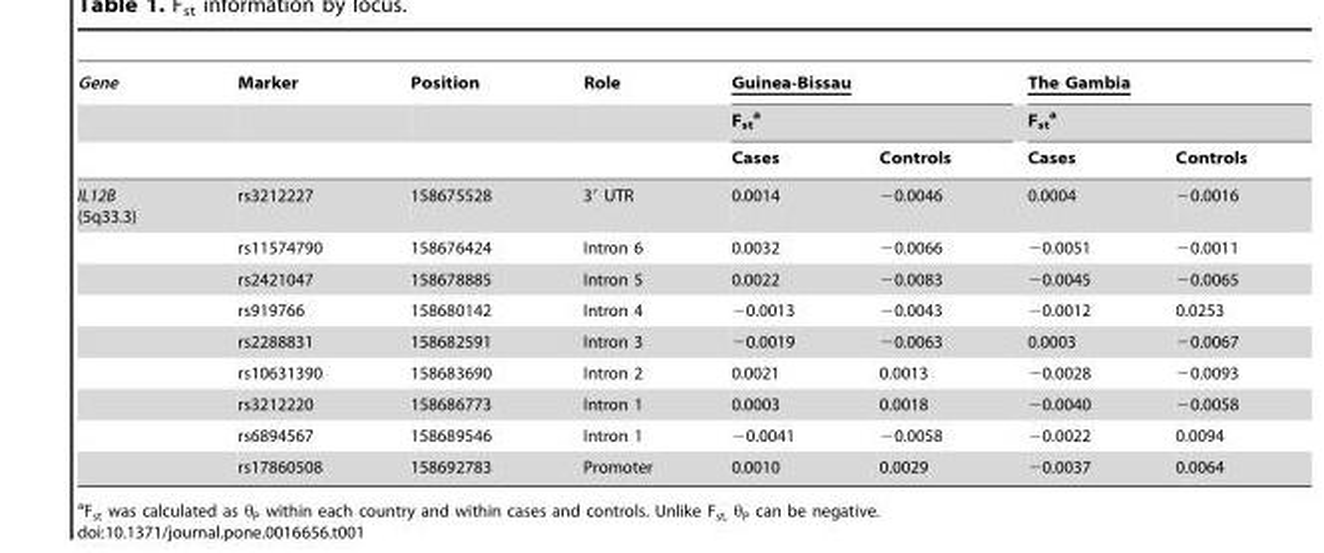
<table><thead><tr><td rowspan="3">Gene</td><td rowspan="3">Marker</td><td rowspan="3">Position</td><td rowspan="3">Role</td><td rowspan="2" colspan="2">Guinea-Bissau F<sub>st</sub> a</td><td rowspan="2" colspan="2">The Gambia F<sub>st</sub> a</td></tr><tr></tr><tr><td>Cases</td><td>Controls</td><td>Cases</td><td>Controls</td></tr></thead><tbody><tr><td rowspan="9">IL12B (5q33.3)</td><td>rs3212227</td><td>158675528</td><td>3′ UTR</td><td>0.0014</td><td>−0.0046</td><td>0.0004</td><td>−0.0016</td></tr><tr><td>rs11574790</td><td>158676424</td><td>Intron 6</td><td>0.0032</td><td>−0.0066</td><td>−0.0051</td><td>−0.0011</td></tr><tr><td>rs2421047</td><td>158678885</td><td>Intron 5</td><td>0.0022</td><td>−0.0083</td><td>−0.0045</td><td>−0.0065</td></tr><tr><td>rs919766</td><td>158680142</td><td>Intron 4</td><td>−0.0013</td><td>−0.0043</td><td>−0.0012</td><td>0.0253</td></tr><tr><td>rs2288831</td><td>158682591</td><td>Intron 3</td><td>−0.0019</td><td>−0.0063</td><td>0.0003</td><td>−0.0067</td></tr><tr><td>rs10631390</td><td>158683690</td><td>Intron 2</td><td>0.0021</td><td>0.0013</td><td>−0.0028</td><td>−0.0093</td></tr><tr><td>rs3212220</td><td>158686773</td><td>Intron 1</td><td>0.0003</td><td>0.0018</td><td>−0.0040</td><td>−0.0058</td></tr><tr><td>rs6894567</td><td>158689546</td><td>Intron 1</td><td>−0.0041</td><td>−0.0058</td><td>−0.0022</td><td>0.0094</td></tr><tr><td>rs17860508</td><td>158692783</td><td>Promoter</td><td>0.0010</td><td>0.0029</td><td>−0.0037</td><td>0.0064</td></tr></tbody></table>